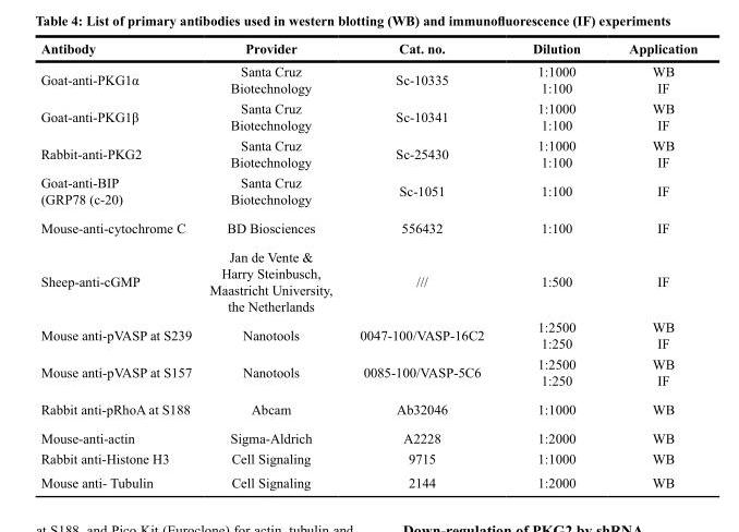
<table><thead><tr><td>Antibody</td><td>Provider</td><td>Cat. no.</td><td>Dilution</td><td>Application</td></tr></thead><tbody><tr><td>Goat-anti-PKG1α</td><td>Santa Cruz Biotechnology</td><td>Sc-10335</td><td>1:1000 1:100</td><td>WB IF</td></tr><tr><td>Goat-anti-PKG1β</td><td>Santa Cruz Biotechnology</td><td>Sc-10341</td><td>1:1000 1:100</td><td>WB IF</td></tr><tr><td>Rabbit-anti-PKG2</td><td>Santa Cruz Biotechnology</td><td>Sc-25430</td><td>1:1000 1:100</td><td>WB IF</td></tr><tr><td>Goat-anti-BIP (GRP78 (c-20)</td><td>Santa Cruz Biotechnology</td><td>Sc-1051</td><td>1:100</td><td>IF</td></tr><tr><td>Mouse-anti-cytochrome C</td><td>BD Biosciences</td><td>556432</td><td>1:100</td><td>IF</td></tr><tr><td>Sheep-anti-cGMP</td><td>Jan de Vente &amp; Harry Steinbusch, Maastricht University, the Netherlands</td><td>///</td><td>1:500</td><td>IF</td></tr><tr><td>Mouse anti-pVASP at S239</td><td>Nanotools</td><td>0047-100/VASP-16C2</td><td>1:2500 1:250</td><td>WB IF</td></tr><tr><td>Mouse anti-pVASP at S157</td><td>Nanotools</td><td>0085-100/VASP-5C6</td><td>1:2500 1:250</td><td>WB IF</td></tr><tr><td>Rabbit anti-pRhoA at S188</td><td>Abcam</td><td>Ab32046</td><td>1:1000</td><td>WB</td></tr><tr><td>Mouse-anti-actin</td><td>Sigma-Aldrich</td><td>A2228</td><td>1:2000</td><td>WB</td></tr><tr><td>Rabbit anti-Histone H3</td><td>Cell Signaling</td><td>9715</td><td>1:1000</td><td>WB</td></tr><tr><td>Mouse anti- Tubulin</td><td>Cell Signaling</td><td>2144</td><td>1:2000</td><td>WB</td></tr></tbody></table>